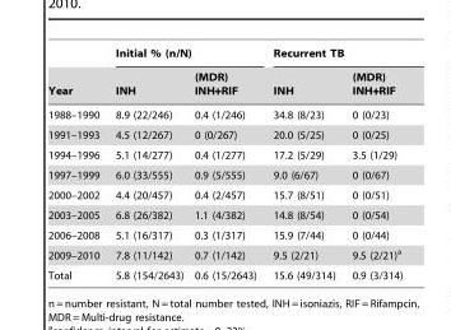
<table><thead><tr><td rowspan="2">Year</td><td colspan="2">Initial % (n/N)</td><td colspan="2">Recurrent TB</td></tr><tr><td>INH</td><td>(MDR) INH+RIF</td><td>INH</td><td>(MDR) INH+RIF</td></tr></thead><tbody><tr><td>1988–1990</td><td>8.9 (22/246)</td><td>0.4 (1/246)</td><td>34.8 (8/23)</td><td>0 (0/23)</td></tr><tr><td>1991–1993</td><td>4.5 (12/267)</td><td>0 (0/267)</td><td>20.0 (5/25)</td><td>0 (0/25)</td></tr><tr><td>1994–1996</td><td>5.1 (14/277)</td><td>0.4 (1/277)</td><td>17.2 (5/29)</td><td>3.5 (1/29)</td></tr><tr><td>1997–1999</td><td>6.0 (33/555)</td><td>0.9 (5/555)</td><td>9.0 (6/67)</td><td>0 (0/67)</td></tr><tr><td>2000–2002</td><td>4.4 (20/457)</td><td>0.4 (2/457)</td><td>15.7 (8/51)</td><td>0 (0/51)</td></tr><tr><td>2003–2005</td><td>6.8 (26/382)</td><td>1.1 (4/382)</td><td>14.8 (8/54)</td><td>0 (0/54)</td></tr><tr><td>2006–2008</td><td>5.1 (16/317)</td><td>0.3 (1/317)</td><td>15.9 (7/44)</td><td>0 (0/44)</td></tr><tr><td>2009–2010</td><td>7.8 (11/142)</td><td>0.7 (1/142)</td><td>9.5 (2/21)</td><td>9.5 (2/21)<sup>a</sup></td></tr><tr><td>Total</td><td>5.8 (154/2643)</td><td>0.6 (15/2643)</td><td>15.6 (49/314)</td><td>0.9 (3/314)</td></tr></tbody></table>